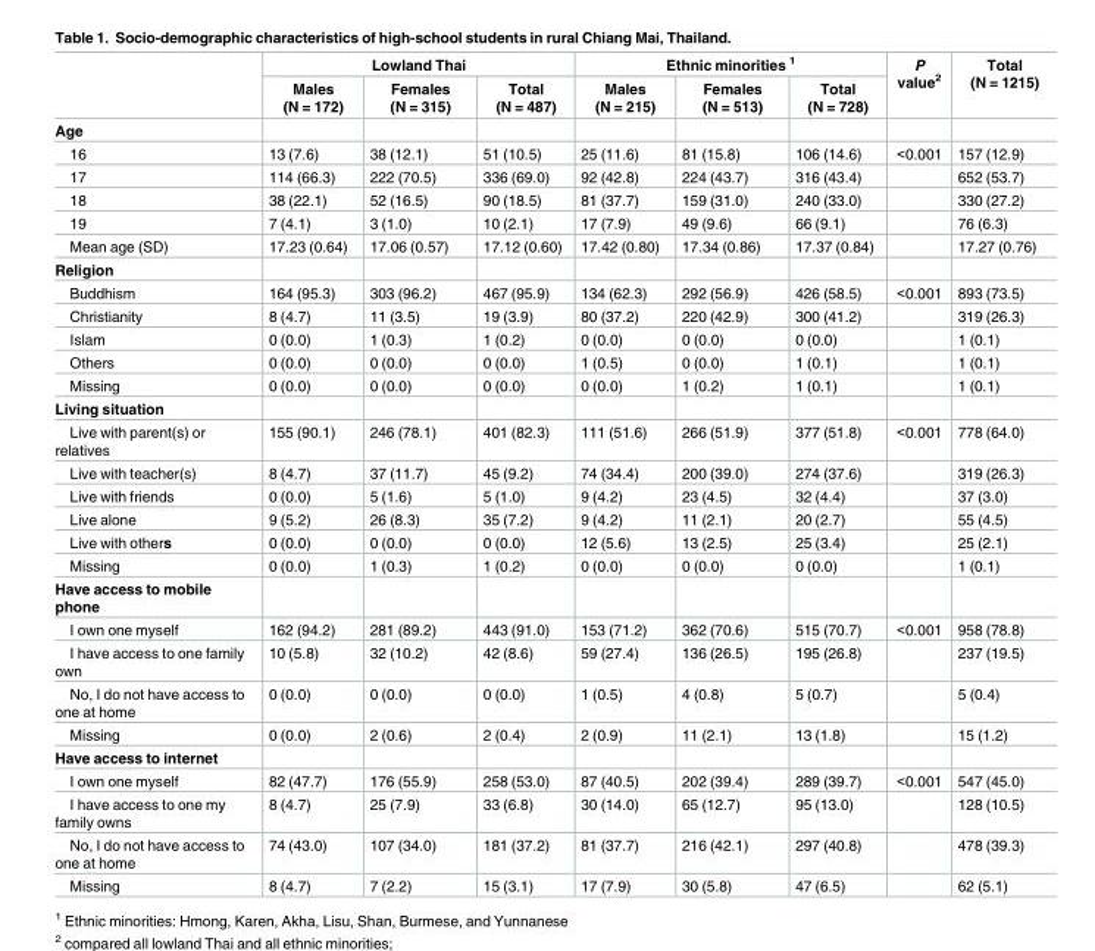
<table><thead><tr><td rowspan="2"></td><td colspan="3">Lowland Thai</td><td colspan="3">Ethnic minorities <sup>1</sup></td><td rowspan="2">P value<sup>2</sup></td><td rowspan="2">Total (N = 1215)</td></tr><tr><td>Males (N = 172)</td><td>Females (N = 315)</td><td>Total (N = 487)</td><td>Males (N = 215)</td><td>Females (N = 513)</td><td>Total (N = 728)</td></tr></thead><tbody><tr><td colspan="9">Age</td></tr><tr><td>16</td><td>13 (7.6)</td><td>38 (12.1)</td><td>51 (10.5)</td><td>25 (11.6)</td><td>81 (15.8)</td><td>106 (14.6)</td><td>&lt;0.001</td><td>157 (12.9)</td></tr><tr><td>17</td><td>114 (66.3)</td><td>222 (70.5)</td><td>336 (69.0)</td><td>92 (42.8)</td><td>224 (43.7)</td><td>316 (43.4)</td><td></td><td>652 (53.7)</td></tr><tr><td>18</td><td>38 (22.1)</td><td>52 (16.5)</td><td>90 (18.5)</td><td>81 (37.7)</td><td>159 (31.0)</td><td>240 (33.0)</td><td></td><td>330 (27.2)</td></tr><tr><td>19</td><td>7 (4.1)</td><td>3 (1.0)</td><td>10 (2.1)</td><td>17 (7.9)</td><td>49 (9.6)</td><td>66 (9.1)</td><td></td><td>76 (6.3)</td></tr><tr><td>Mean age (SD)</td><td>17.23 (0.64)</td><td>17.06 (0.57)</td><td>17.12 (0.60)</td><td>17.42 (0.80)</td><td>17.34 (0.86)</td><td>17.37 (0.84)</td><td></td><td>17.27 (0.76)</td></tr><tr><td colspan="9">Religion</td></tr><tr><td>Buddhism</td><td>164 (95.3)</td><td>303 (96.2)</td><td>467 (95.9)</td><td>134 (62.3)</td><td>292 (56.9)</td><td>426 (58.5)</td><td>&lt;0.001</td><td>893 (73.5)</td></tr><tr><td>Christianity</td><td>8 (4.7)</td><td>11 (3.5)</td><td>19 (3.9)</td><td>80 (37.2)</td><td>220 (42.9)</td><td>300 (41.2)</td><td></td><td>319 (26.3)</td></tr><tr><td>Islam</td><td>0 (0.0)</td><td>1 (0.3)</td><td>1 (0.2)</td><td>0 (0.0)</td><td>0 (0.0)</td><td>0 (0.0)</td><td></td><td>1 (0.1)</td></tr><tr><td>Others</td><td>0 (0.0)</td><td>0 (0.0)</td><td>0 (0.0)</td><td>1 (0.5)</td><td>0 (0.0)</td><td>1 (0.1)</td><td></td><td>1 (0.1)</td></tr><tr><td>Missing</td><td>0 (0.0)</td><td>0 (0.0)</td><td>0 (0.0)</td><td>0 (0.0)</td><td>1 (0.2)</td><td>1 (0.1)</td><td></td><td>1 (0.1)</td></tr><tr><td colspan="9">Living situation</td></tr><tr><td>Live with parent(s) or relatives</td><td>155 (90.1)</td><td>246 (78.1)</td><td>401 (82.3)</td><td>111 (51.6)</td><td>266 (51.9)</td><td>377 (51.8)</td><td>&lt;0.001</td><td>778 (64.0)</td></tr><tr><td>Live with teacher(s)</td><td>8 (4.7)</td><td>37 (11.7)</td><td>45 (9.2)</td><td>74 (34.4)</td><td>200 (39.0)</td><td>274 (37.6)</td><td></td><td>319 (26.3)</td></tr><tr><td>Live with friends</td><td>0 (0.0)</td><td>5 (1.6)</td><td>5 (1.0)</td><td>9 (4.2)</td><td>23 (4.5)</td><td>32 (4.4)</td><td></td><td>37 (3.0)</td></tr><tr><td>Live alone</td><td>9 (5.2)</td><td>26 (8.3)</td><td>35 (7.2)</td><td>9 (4.2)</td><td>11 (2.1)</td><td>20 (2.7)</td><td></td><td>55 (4.5)</td></tr><tr><td>Live with others</td><td>0 (0.0)</td><td>0 (0.0)</td><td>0 (0.0)</td><td>12 (5.6)</td><td>13 (2.5)</td><td>25 (3.4)</td><td></td><td>25 (2.1)</td></tr><tr><td>Missing</td><td>0 (0.0)</td><td>1 (0.3)</td><td>1 (0.2)</td><td>0 (0.0)</td><td>0 (0.0)</td><td>0 (0.0)</td><td></td><td>1 (0.1)</td></tr><tr><td colspan="9">Have access to mobile phone</td></tr><tr><td>I own one myself</td><td>162 (94.2)</td><td>281 (89.2)</td><td>443 (91.0)</td><td>153 (71.2)</td><td>362 (70.6)</td><td>515 (70.7)</td><td>&lt;0.001</td><td>958 (78.8)</td></tr><tr><td>I have access to one family own</td><td>10 (5.8)</td><td>32 (10.2)</td><td>42 (8.6)</td><td>59 (27.4)</td><td>136 (26.5)</td><td>195 (26.8)</td><td></td><td>237 (19.5)</td></tr><tr><td>No, I do not have access to one at home</td><td>0 (0.0)</td><td>0 (0.0)</td><td>0 (0.0)</td><td>1 (0.5)</td><td>4 (0.8)</td><td>5 (0.7)</td><td></td><td>5 (0.4)</td></tr><tr><td>Missing</td><td>0 (0.0)</td><td>2 (0.6)</td><td>2 (0.4)</td><td>2 (0.9)</td><td>11 (2.1)</td><td>13 (1.8)</td><td></td><td>15 (1.2)</td></tr><tr><td colspan="9">Have access to internet</td></tr><tr><td>I own one myself</td><td>82 (47.7)</td><td>176 (55.9)</td><td>258 (53.0)</td><td>87 (40.5)</td><td>202 (39.4)</td><td>289 (39.7)</td><td>&lt;0.001</td><td>547 (45.0)</td></tr><tr><td>I have access to one my family owns</td><td>8 (4.7)</td><td>25 (7.9)</td><td>33 (6.8)</td><td>30 (14.0)</td><td>65 (12.7)</td><td>95 (13.0)</td><td></td><td>128 (10.5)</td></tr><tr><td>No, I do not have access to one at home</td><td>74 (43.0)</td><td>107 (34.0)</td><td>181 (37.2)</td><td>81 (37.7)</td><td>216 (42.1)</td><td>297 (40.8)</td><td></td><td>478 (39.3)</td></tr><tr><td>Missing</td><td>8 (4.7)</td><td>7 (2.2)</td><td>15 (3.1)</td><td>17 (7.9)</td><td>30 (5.8)</td><td>47 (6.5)</td><td></td><td>62 (5.1)</td></tr></tbody></table>